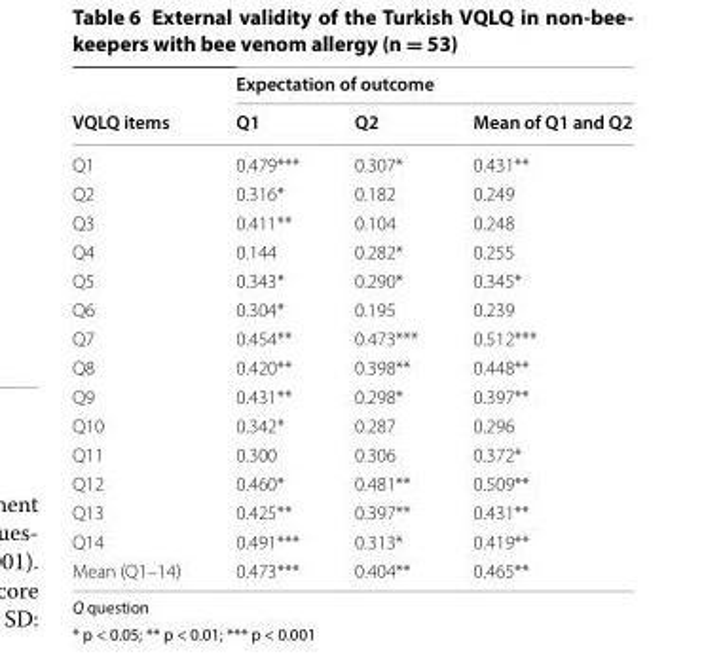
<table><thead><tr><td rowspan="2">VQLQ items</td><td colspan="3">Expectation of outcome</td></tr><tr><td>Q1</td><td>Q2</td><td>Mean of Q1 and Q2</td></tr></thead><tbody><tr><td>Q1</td><td>0.479***</td><td>0.307*</td><td>0.431**</td></tr><tr><td>Q2</td><td>0.316*</td><td>0.182</td><td>0.249</td></tr><tr><td>Q3</td><td>0.411**</td><td>0.104</td><td>0.248</td></tr><tr><td>Q4</td><td>0.144</td><td>0.282*</td><td>0.255</td></tr><tr><td>Q5</td><td>0.343*</td><td>0.290*</td><td>0.345*</td></tr><tr><td>Q6</td><td>0.304*</td><td>0.195</td><td>0.239</td></tr><tr><td>Q7</td><td>0.454**</td><td>0.473***</td><td>0.512***</td></tr><tr><td>Q8</td><td>0.420**</td><td>0.398**</td><td>0.448**</td></tr><tr><td>Q9</td><td>0.431**</td><td>0.298*</td><td>0.397**</td></tr><tr><td>Q10</td><td>0.342*</td><td>0.287</td><td>0.296</td></tr><tr><td>Q11</td><td>0.300</td><td>0.306</td><td>0.372*</td></tr><tr><td>Q12</td><td>0.460*</td><td>0.481**</td><td>0.509**</td></tr><tr><td>Q13</td><td>0.425**</td><td>0.397**</td><td>0.431**</td></tr><tr><td>Q14</td><td>0.491***</td><td>0.313*</td><td>0.419**</td></tr><tr><td>Mean (Q1–14)</td><td>0.473***</td><td>0.404**</td><td>0.465**</td></tr></tbody></table>